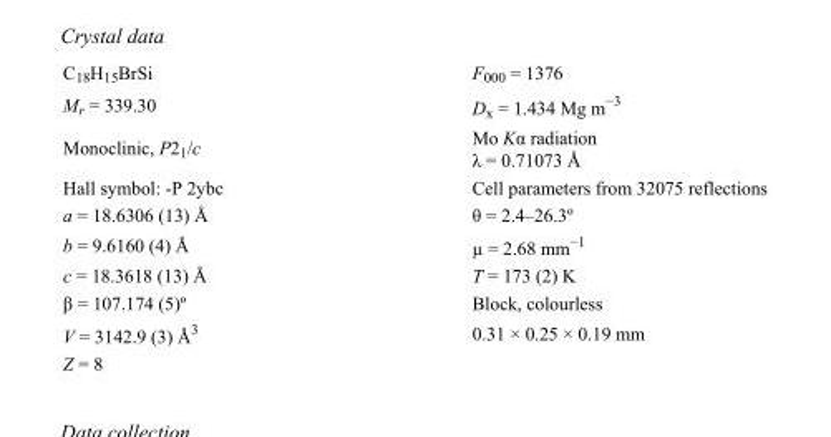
<table><tbody><tr><td>C<sub>18</sub>H<sub>15</sub>BrSi</td><td>F<sub>000</sub> = 1376</td></tr><tr><td>M<sub>r</sub> = 339.30</td><td>D<sub>x</sub> = 1.434 Mg m<sup>−3</sup></td></tr><tr><td>Monoclinic, P2<sub>1</sub>/c</td><td>Mo Kα radiation λ = 0.71073 Å</td></tr><tr><td>Hall symbol: -P 2ybc</td><td>Cell parameters from 32075 reflections</td></tr><tr><td>a = 18.6306 (13) Å</td><td>θ = 2.4–26.3º</td></tr><tr><td>b = 9.6160 (4) Å</td><td>µ = 2.68 mm<sup>−1</sup></td></tr><tr><td>c = 18.3618 (13) Å</td><td>T = 173 (2) K</td></tr><tr><td>β = 107.174 (5)º</td><td>Block, colourless</td></tr><tr><td>V = 3142.9 (3) Å<sup>3</sup></td><td>0.31 × 0.25 × 0.19 mm</td></tr><tr><td>Z = 8</td><td></td></tr></tbody></table>